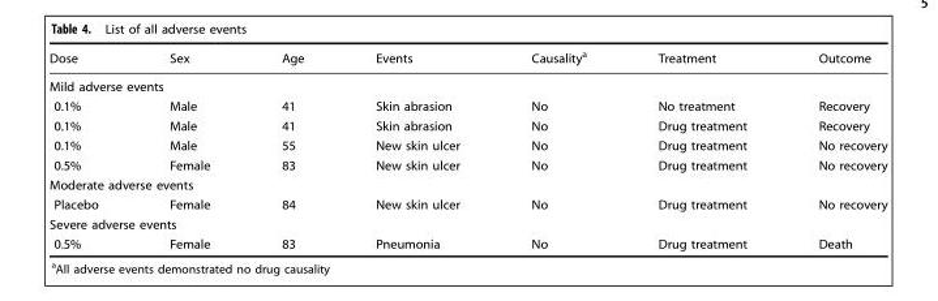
<table><thead><tr><td>Dose</td><td>Sex</td><td>Age</td><td>Events</td><td>Causality<sup>a</sup></td><td>Treatment</td><td>Outcome</td></tr></thead><tbody><tr><td colspan="7">Mild adverse events</td></tr><tr><td>0.1%</td><td>Male</td><td>41</td><td>Skin abrasion</td><td>No</td><td>No treatment</td><td>Recovery</td></tr><tr><td>0.1%</td><td>Male</td><td>41</td><td>Skin abrasion</td><td>No</td><td>Drug treatment</td><td>Recovery</td></tr><tr><td>0.1%</td><td>Male</td><td>55</td><td>New skin ulcer</td><td>No</td><td>Drug treatment</td><td>No recovery</td></tr><tr><td>0.5%</td><td>Female</td><td>83</td><td>New skin ulcer</td><td>No</td><td>Drug treatment</td><td>No recovery</td></tr><tr><td colspan="7">Moderate adverse events</td></tr><tr><td>Placebo</td><td>Female</td><td>84</td><td>New skin ulcer</td><td>No</td><td>Drug treatment</td><td>No recovery</td></tr><tr><td colspan="7">Severe adverse events</td></tr><tr><td>0.5%</td><td>Female</td><td>83</td><td>Pneumonia</td><td>No</td><td>Drug treatment</td><td>Death</td></tr></tbody></table>